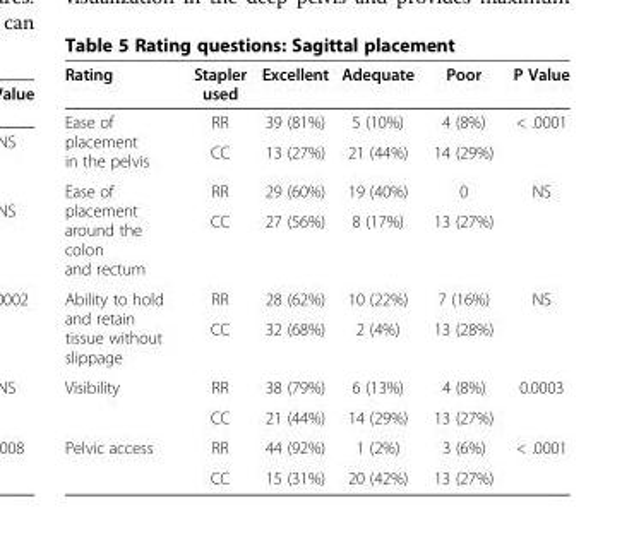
<table><thead><tr><td>Rating</td><td>Stapler used</td><td>Excellent</td><td>Adequate</td><td>Poor</td><td>P Value</td></tr></thead><tbody><tr><td rowspan="2">Ease of placement in the pelvis</td><td>RR</td><td>39 (81%)</td><td>5 (10%)</td><td>4 (8%)</td><td rowspan="2">&lt; .0001</td></tr><tr><td>CC</td><td>13 (27%)</td><td>21 (44%)</td><td>14 (29%)</td></tr><tr><td rowspan="2">Ease of placement around the colon and rectum</td><td>RR</td><td>29 (60%)</td><td>19 (40%)</td><td>0</td><td rowspan="2">NS</td></tr><tr><td>CC</td><td>27 (56%)</td><td>8 (17%)</td><td>13 (27%)</td></tr><tr><td rowspan="2">Ability to hold and retain tissue without slippage</td><td>RR</td><td>28 (62%)</td><td>10 (22%)</td><td>7 (16%)</td><td rowspan="2">NS</td></tr><tr><td>CC</td><td>32 (68%)</td><td>2 (4%)</td><td>13 (28%)</td></tr><tr><td rowspan="2">Visibility</td><td>RR</td><td>38 (79%)</td><td>6 (13%)</td><td>4 (8%)</td><td rowspan="2">0.0003</td></tr><tr><td>CC</td><td>21 (44%)</td><td>14 (29%)</td><td>13 (27%)</td></tr><tr><td rowspan="2">Pelvic access</td><td>RR</td><td>44 (92%)</td><td>1 (2%)</td><td>3 (6%)</td><td>&lt; .0001</td></tr><tr><td>CC</td><td>15 (31%)</td><td>20 (42%)</td><td>13 (27%)</td><td></td></tr></tbody></table>